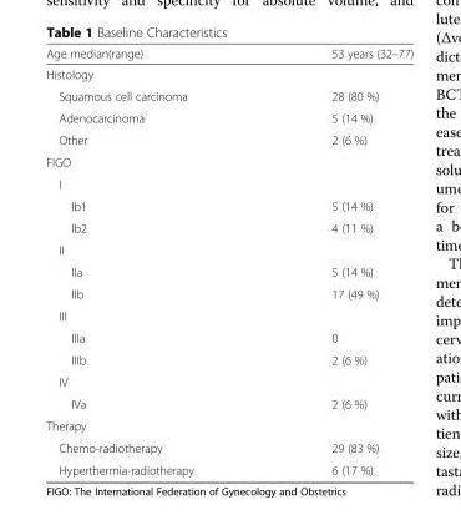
<table><thead><tr><td>Age median(range)</td><td>53 years (32–77)</td></tr></thead><tbody><tr><td colspan="2">Histology</td></tr><tr><td>Squamous cell carcinoma</td><td>28 (80 %)</td></tr><tr><td>Adenocarcinoma</td><td>5 (14 %)</td></tr><tr><td>Other</td><td>2 (6 %)</td></tr><tr><td colspan="2">FIGO</td></tr><tr><td colspan="2">I</td></tr><tr><td>Ib1</td><td>5 (14 %)</td></tr><tr><td>Ib2</td><td>4 (11 %)</td></tr><tr><td colspan="2">II</td></tr><tr><td>IIa</td><td>5 (14 %)</td></tr><tr><td>IIb</td><td>17 (49 %)</td></tr><tr><td colspan="2">III</td></tr><tr><td>IIIa</td><td>0</td></tr><tr><td>IIIb</td><td>2 (6 %)</td></tr><tr><td colspan="2">IV</td></tr><tr><td>IVa</td><td>2 (6 %)</td></tr><tr><td colspan="2">Therapy</td></tr><tr><td>Chemo-radiotherapy</td><td>29 (83 %)</td></tr><tr><td>Hyperthermia-radiotherapy</td><td>6 (17 %)</td></tr></tbody></table>